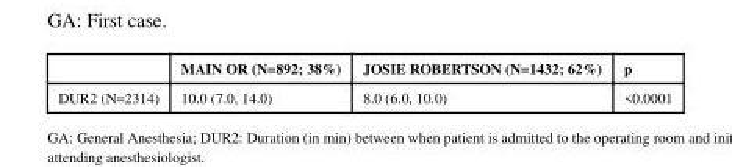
<table><thead><tr><td></td><td>MAIN OR (N=892; 38%)</td><td>JOSIE ROBERTSON (N=1432; 62%)</td><td>p</td></tr></thead><tbody><tr><td>DUR2 (N=2314)</td><td>10.0 (7.0, 14.0)</td><td>8.0 (6.0, 10.0)</td><td>&lt;0.0001</td></tr></tbody></table>